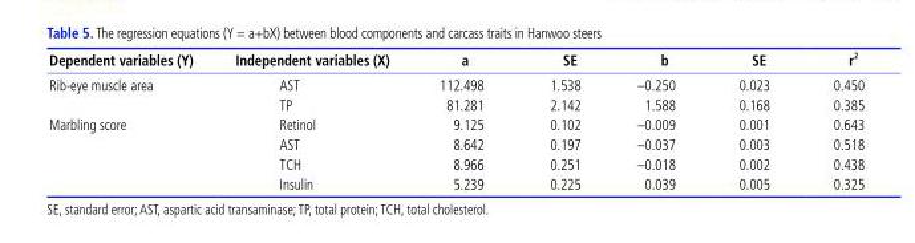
<table><thead><tr><td>Dependent variables (Y)</td><td>Independent variables (X)</td><td>a</td><td>SE</td><td>b</td><td>SE</td><td>r <sup>2</sup></td></tr></thead><tbody><tr><td rowspan="2">Rib-eye muscle area</td><td>AST</td><td>112.498</td><td>1.538</td><td>–0.250</td><td>0.023</td><td>0.450</td></tr><tr><td>TP</td><td>81.281</td><td>2.142</td><td>1.588</td><td>0.168</td><td>0.385</td></tr><tr><td rowspan="4">Marbling score</td><td>Retinol</td><td>9.125</td><td>0.102</td><td>–0.009</td><td>0.001</td><td>0.643</td></tr><tr><td>AST</td><td>8.642</td><td>0.197</td><td>–0.037</td><td>0.003</td><td>0.518</td></tr><tr><td>TCH</td><td>8.966</td><td>0.251</td><td>–0.018</td><td>0.002</td><td>0.438</td></tr><tr><td>Insulin</td><td>5.239</td><td>0.225</td><td>0.039</td><td>0.005</td><td>0.325</td></tr></tbody></table>